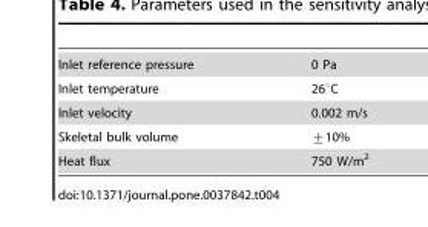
<table><tbody><tr><td>Inlet reference pressure</td><td>0 Pa</td></tr><tr><td>Inlet temperature</td><td>26°C</td></tr><tr><td>Inlet velocity</td><td>0.002 m/s</td></tr><tr><td>Skeletal bulk volume</td><td>+10%</td></tr><tr><td>Heat flux</td><td>750 W/m<sup>2</sup></td></tr></tbody></table>